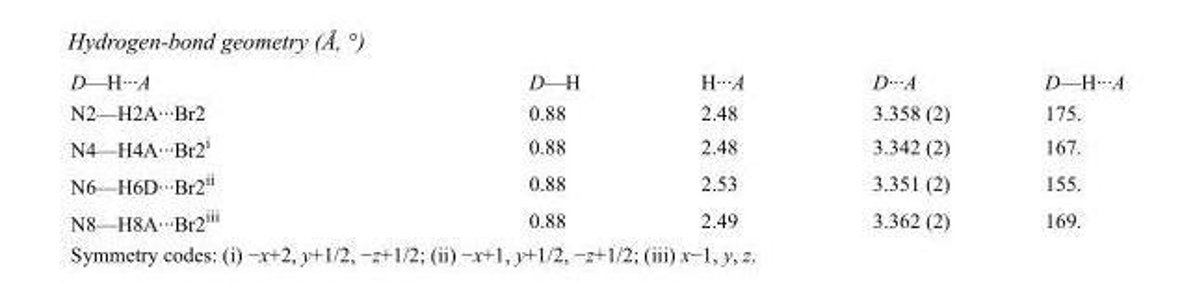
<table><tbody><tr><td>D—H···A</td><td>D—H</td><td>H···A</td><td>D···A</td><td>D—H···A</td></tr><tr><td>N2—H2A···Br2</td><td>0.88</td><td>2.48</td><td>3.358 (2)</td><td>175.</td></tr><tr><td>N4—H4A···Br2<sup>i</sup></td><td>0.88</td><td>2.48</td><td>3.342 (2)</td><td>167.</td></tr><tr><td>N6—H6D···Br2<sup>ii</sup></td><td>0.88</td><td>2.53</td><td>3.351 (2)</td><td>155.</td></tr><tr><td>N8—H8A···Br2<sup>iii</sup></td><td>0.88</td><td>2.49</td><td>3.362 (2)</td><td>169.</td></tr></tbody></table>